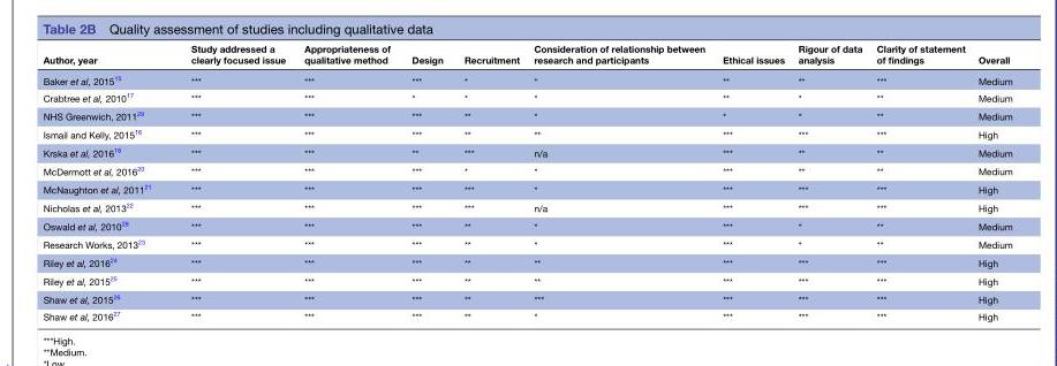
<table><thead><tr><td>Author, year</td><td>Study addressed a clearly focused issue</td><td>Appropriateness of qualitative method</td><td>Design</td><td>Recruitment</td><td>Consideration of relationship between research and participants</td><td>Ethical issues</td><td>Rigour of data analysis</td><td>Clarity of statement of findings</td><td>Overall</td></tr></thead><tbody><tr><td>Baker et al, 2015<sup>15</sup></td><td>***</td><td>***</td><td>***</td><td>*</td><td>*</td><td>**</td><td>**</td><td>***</td><td>Medium</td></tr><tr><td>Crabtree et al, 2010<sup>17</sup></td><td>***</td><td>***</td><td>*</td><td>*</td><td>*</td><td>**</td><td>*</td><td>**</td><td>Medium</td></tr><tr><td>NHS Greenwich, 2011<sup>29</sup></td><td>***</td><td>***</td><td>***</td><td>**</td><td>*</td><td>*</td><td>*</td><td>**</td><td>Medium</td></tr><tr><td>Ismail and Kelly, 2015<sup>16</sup></td><td>***</td><td>***</td><td>***</td><td>**</td><td>**</td><td>***</td><td>***</td><td>***</td><td>High</td></tr><tr><td>Krska et al, 2016<sup>18</sup></td><td>***</td><td>***</td><td>**</td><td>***</td><td>n/a</td><td>***</td><td>**</td><td>**</td><td>Medium</td></tr><tr><td>McDermott et al, 2016<sup>20</sup></td><td>***</td><td>***</td><td>***</td><td>*</td><td>*</td><td>***</td><td>**</td><td>**</td><td>Medium</td></tr><tr><td>McNaughton et al, 2011<sup>21</sup></td><td>***</td><td>***</td><td>***</td><td>***</td><td>*</td><td>***</td><td>***</td><td>***</td><td>High</td></tr><tr><td>Nicholas et al, 2013<sup>22</sup></td><td>***</td><td>***</td><td>***</td><td>***</td><td>n/a</td><td>***</td><td>***</td><td>***</td><td>High</td></tr><tr><td>Oswald et al, 2010<sup>28</sup></td><td>***</td><td>***</td><td>***</td><td>**</td><td>*</td><td>***</td><td>*</td><td>**</td><td>Medium</td></tr><tr><td>Research Works, 2013<sup>23</sup></td><td>***</td><td>***</td><td>***</td><td>**</td><td>*</td><td>***</td><td>*</td><td>**</td><td>Medium</td></tr><tr><td>Riley et al, 2016<sup>24</sup></td><td>***</td><td>***</td><td>***</td><td>**</td><td>**</td><td>***</td><td>***</td><td>***</td><td>High</td></tr><tr><td>Riley et al, 2015<sup>25</sup></td><td>***</td><td>***</td><td>***</td><td>**</td><td>**</td><td>***</td><td>***</td><td>***</td><td>High</td></tr><tr><td>Shaw et al, 2015<sup>26</sup></td><td>***</td><td>***</td><td>***</td><td>**</td><td>***</td><td>***</td><td>***</td><td>***</td><td>High</td></tr><tr><td>Shaw et al, 2016<sup>27</sup></td><td>***</td><td>***</td><td>***</td><td>**</td><td>*</td><td>***</td><td>***</td><td>***</td><td>High</td></tr></tbody></table>